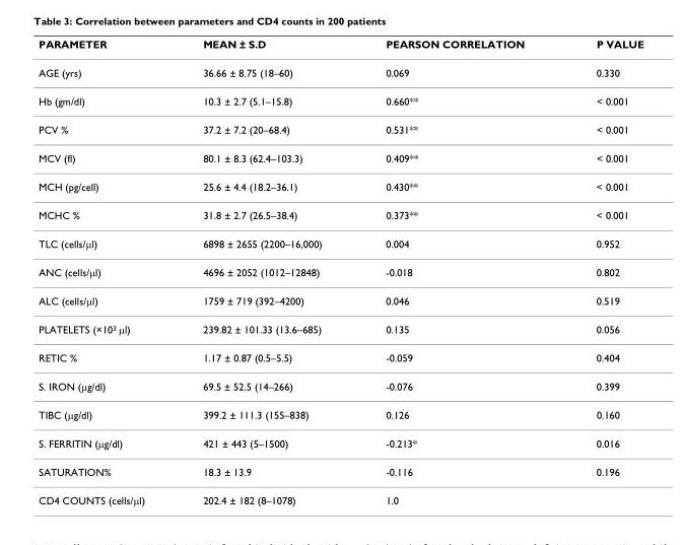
<table><thead><tr><td>PARAMETER</td><td>MEAN ± S.D</td><td>PEARSON CORRELATION</td><td>P VALUE</td></tr></thead><tbody><tr><td>AGE (yrs)</td><td>36.66 ± 8.75 (18–60)</td><td>0.069</td><td>0.330</td></tr><tr><td>Hb (gm/dl)</td><td>10.3 ± 2.7 (5.1–15.8)</td><td>0.660**</td><td>&lt; 0.001</td></tr><tr><td>PCV %</td><td>37.2 ± 7.2 (20–68.4)</td><td>0.531**</td><td>&lt; 0.001</td></tr><tr><td>MCV (fl)</td><td>80.1 ± 8.3 (62.4–103.3)</td><td>0.409**</td><td>&lt; 0.001</td></tr><tr><td>MCH (pg/cell)</td><td>25.6 ± 4.4 (18.2–36.1)</td><td>0.430**</td><td>&lt; 0.001</td></tr><tr><td>MCHC %</td><td>31.8 ± 2.7 (26.5–38.4)</td><td>0.373**</td><td>&lt; 0.001</td></tr><tr><td>TLC (cells/μl)</td><td>6898 ± 2655 (2200–16,000)</td><td>0.004</td><td>0.952</td></tr><tr><td>ANC (cells/μl)</td><td>4696 ± 2052 (1012–12848)</td><td>-0.018</td><td>0.802</td></tr><tr><td>ALC (cells/μl)</td><td>1759 ± 719 (392–4200)</td><td>0.046</td><td>0.519</td></tr><tr><td>PLATELETS (×10<sup>3</sup> μl)</td><td>239.82 ± 101.33 (13.6–685)</td><td>0.135</td><td>0.056</td></tr><tr><td>RETIC %</td><td>1.17 ± 0.87 (0.5–5.5)</td><td>-0.059</td><td>0.404</td></tr><tr><td>S. IRON (μg/dl)</td><td>69.5 ± 52.5 (14–266)</td><td>-0.076</td><td>0.399</td></tr><tr><td>TIBC (μg/dl)</td><td>399.2 ± 111.3 (155–838)</td><td>0.126</td><td>0.160</td></tr><tr><td>S. FERRITIN (μg/dl)</td><td>421 ± 443 (5–1500)</td><td>-0.213*</td><td>0.016</td></tr><tr><td>SATURATION%</td><td>18.3 ± 13.9</td><td>-0.116</td><td>0.196</td></tr><tr><td>CD4 COUNTS (cells/μl)</td><td>202.4 ± 182 (8–1078)</td><td>1.0</td><td></td></tr></tbody></table>